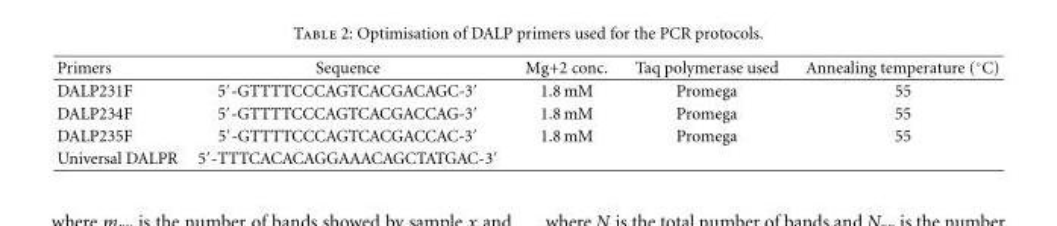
<table><thead><tr><td>Primers</td><td>Sequence</td><td>Mg+2 conc.</td><td>Taq polymerase used</td><td>Annealing temperature (◦C)</td></tr></thead><tbody><tr><td>DALP231F</td><td>5′-GTTTTCCCAGTCACGACAGC-3′</td><td>1.8 mM</td><td>Promega</td><td>55</td></tr><tr><td>DALP234F</td><td>5′-GTTTTCCCAGTCACGACCAG-3′</td><td>1.8 mM</td><td>Promega</td><td>55</td></tr><tr><td>DALP235F</td><td>5′-GTTTTCCCAGTCACGACCAC-3′</td><td>1.8 mM</td><td>Promega</td><td>55</td></tr><tr><td>Universal DALPR</td><td>5′-TTTCACACAGGAAACAGCTATGAC-3′</td><td></td><td></td><td></td></tr></tbody></table>